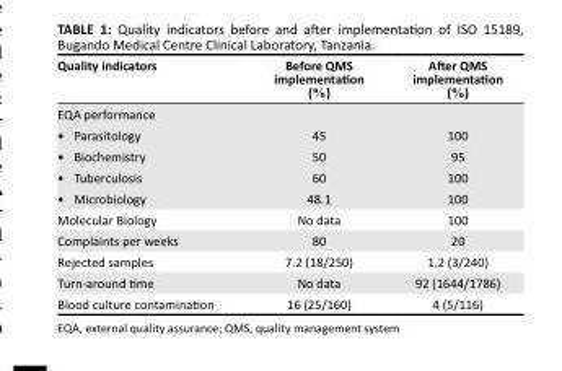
<table><thead><tr><td>Quality indicators</td><td>Before QMS implementation (%)</td><td>After QMS implementation (%)</td></tr></thead><tbody><tr><td colspan="3">EQA performance</td></tr><tr><td>• Parasitology</td><td>45</td><td>100</td></tr><tr><td>• Biochemistry</td><td>50</td><td>95</td></tr><tr><td>• Tuberculosis</td><td>60</td><td>100</td></tr><tr><td>• Microbiology</td><td>48.1</td><td>100</td></tr><tr><td>Molecular Biology</td><td>No data</td><td>100</td></tr><tr><td>Complaints per weeks</td><td>80</td><td>20</td></tr><tr><td>Rejected samples</td><td>7.2 (18/250)</td><td>1.2 (3/240)</td></tr><tr><td>Turn-around time</td><td>No data</td><td>92 (1644/1786)</td></tr><tr><td>Blood culture contamination</td><td>16 (25/160)</td><td>4 (5/116)</td></tr></tbody></table>